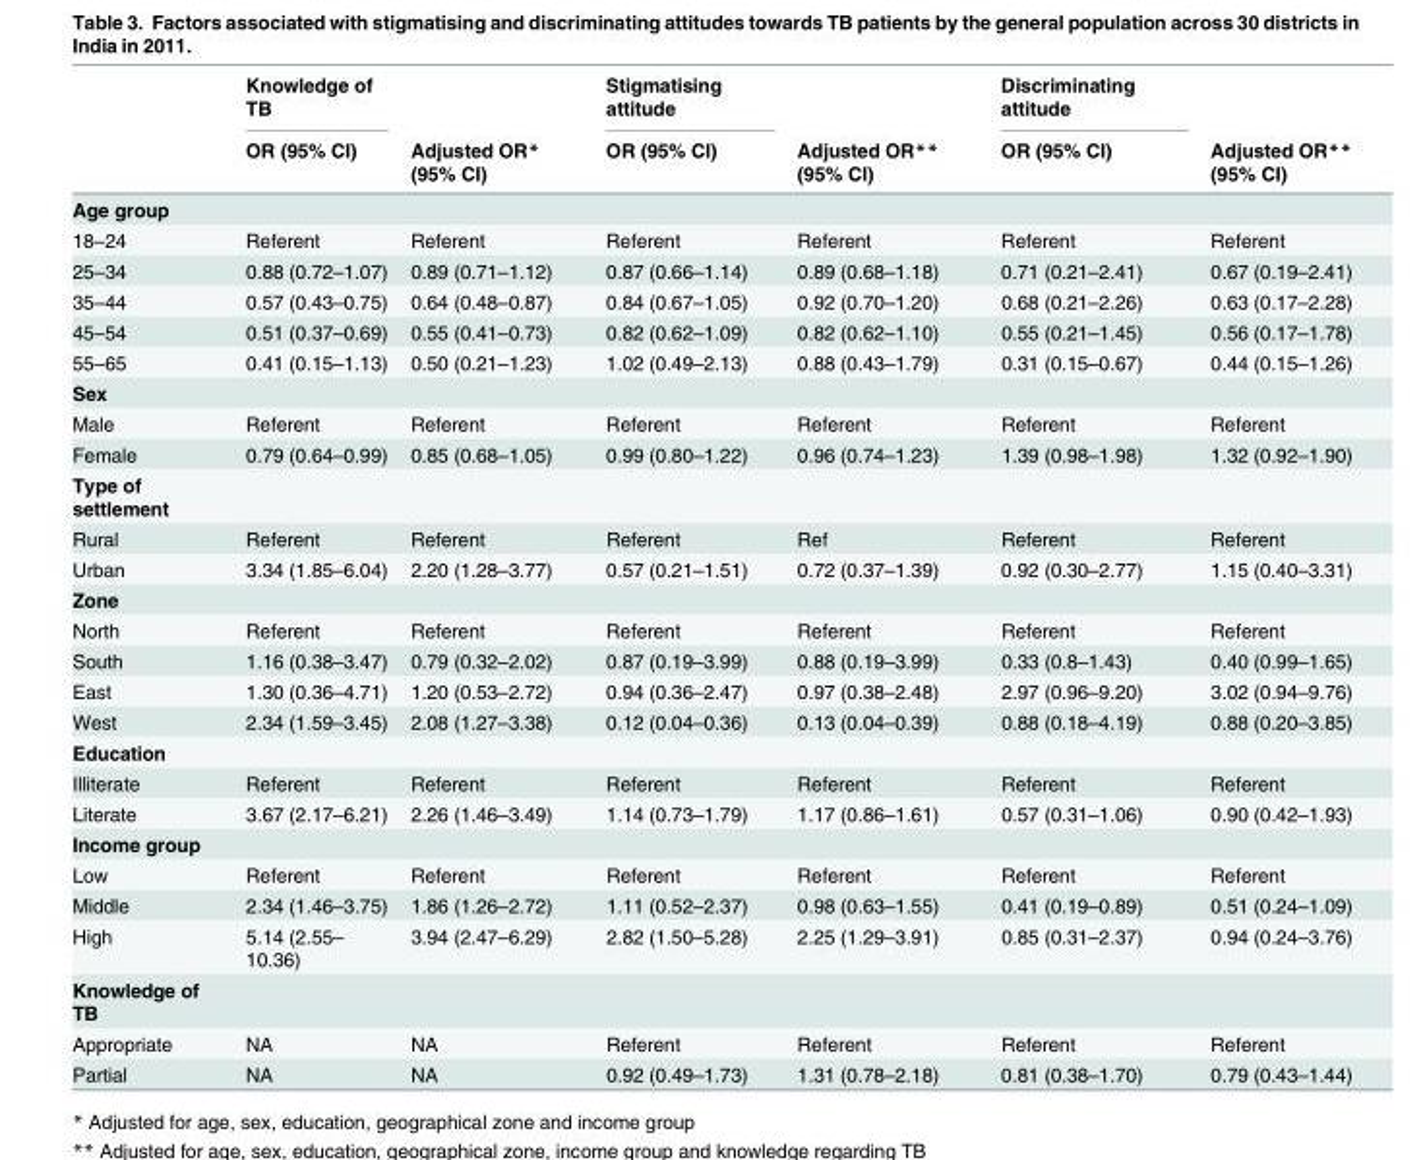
<table><thead><tr><td rowspan="2"></td><td rowspan="2">Knowledge of TB OR (95% CI)</td><td rowspan="2">Adjusted OR* (95% CI)</td><td rowspan="2">Stigmatising attitude OR (95% CI)</td><td rowspan="2">Adjusted OR** (95% CI)</td><td rowspan="2">Discriminating attitude OR (95% CI)</td><td rowspan="2">Adjusted OR** (95% CI)</td></tr><tr></tr></thead><tbody><tr><td colspan="7">Age group</td></tr><tr><td>18–24</td><td>Referent</td><td>Referent</td><td>Referent</td><td>Referent</td><td>Referent</td><td>Referent</td></tr><tr><td>25–34</td><td>0.88 (0.72–1.07)</td><td>0.89 (0.71–1.12)</td><td>0.87 (0.66–1.14)</td><td>0.89 (0.68–1.18)</td><td>0.71 (0.21–2.41)</td><td>0.67 (0.19–2.41)</td></tr><tr><td>35–44</td><td>0.57 (0.43–0.75)</td><td>0.64 (0.48–0.87)</td><td>0.84 (0.67–1.05)</td><td>0.92 (0.70–1.20)</td><td>0.68 (0.21–2.26)</td><td>0.63 (0.17–2.28)</td></tr><tr><td>45–54</td><td>0.51 (0.37–0.69)</td><td>0.55 (0.41–0.73)</td><td>0.82 (0.62–1.09)</td><td>0.82 (0.62–1.10)</td><td>0.55 (0.21–1.45)</td><td>0.56 (0.17–1.78)</td></tr><tr><td>55–65</td><td>0.41 (0.15–1.13)</td><td>0.50 (0.21–1.23)</td><td>1.02 (0.49–2.13)</td><td>0.88 (0.43–1.79)</td><td>0.31 (0.15–0.67)</td><td>0.44 (0.15–1.26)</td></tr><tr><td colspan="7">Sex</td></tr><tr><td>Male</td><td>Referent</td><td>Referent</td><td>Referent</td><td>Referent</td><td>Referent</td><td>Referent</td></tr><tr><td>Female</td><td>0.79 (0.64–0.99)</td><td>0.85 (0.68–1.05)</td><td>0.99 (0.80–1.22)</td><td>0.96 (0.74–1.23)</td><td>1.39 (0.98–1.98)</td><td>1.32 (0.92–1.90)</td></tr><tr><td colspan="7">Type of settlement</td></tr><tr><td>Rural</td><td>Referent</td><td>Referent</td><td>Referent</td><td>Ref</td><td>Referent</td><td>Referent</td></tr><tr><td>Urban</td><td>3.34 (1.85–6.04)</td><td>2.20 (1.28–3.77)</td><td>0.57 (0.21–1.51)</td><td>0.72 (0.37–1.39)</td><td>0.92 (0.30–2.77)</td><td>1.15 (0.40–3.31)</td></tr><tr><td colspan="7">Zone</td></tr><tr><td>North</td><td>Referent</td><td>Referent</td><td>Referent</td><td>Referent</td><td>Referent</td><td>Referent</td></tr><tr><td>South</td><td>1.16 (0.38–3.47)</td><td>0.79 (0.32–2.02)</td><td>0.87 (0.19–3.99)</td><td>0.88 (0.19–3.99)</td><td>0.33 (0.8–1.43)</td><td>0.40 (0.99–1.65)</td></tr><tr><td>East</td><td>1.30 (0.36–4.71)</td><td>1.20 (0.53–2.72)</td><td>0.94 (0.36–2.47)</td><td>0.97 (0.38–2.48)</td><td>2.97 (0.96–9.20)</td><td>3.02 (0.94–9.76)</td></tr><tr><td>West</td><td>2.34 (1.59–3.45)</td><td>2.08 (1.27–3.38)</td><td>0.12 (0.04–0.36)</td><td>0.13 (0.04–0.39)</td><td>0.88 (0.18–4.19)</td><td>0.88 (0.20–3.85)</td></tr><tr><td colspan="7">Education</td></tr><tr><td>Illiterate</td><td>Referent</td><td>Referent</td><td>Referent</td><td>Referent</td><td>Referent</td><td>Referent</td></tr><tr><td>Literate</td><td>3.67 (2.17–6.21)</td><td>2.26 (1.46–3.49)</td><td>1.14 (0.73–1.79)</td><td>1.17 (0.86–1.61)</td><td>0.57 (0.31–1.06)</td><td>0.90 (0.42–1.93)</td></tr><tr><td colspan="7">Income group</td></tr><tr><td>Low</td><td>Referent</td><td>Referent</td><td>Referent</td><td>Referent</td><td>Referent</td><td>Referent</td></tr><tr><td>Middle</td><td>2.34 (1.46–3.75)</td><td>1.86 (1.26–2.72)</td><td>1.11 (0.52–2.37)</td><td>0.98 (0.63–1.55)</td><td>0.41 (0.19–0.89)</td><td>0.51 (0.24–1.09)</td></tr><tr><td>High</td><td>5.14 (2.55– 10.36)</td><td>3.94 (2.47–6.29)</td><td>2.82 (1.50–5.28)</td><td>2.25 (1.29–3.91)</td><td>0.85 (0.31–2.37)</td><td>0.94 (0.24–3.76)</td></tr><tr><td colspan="7">Knowledge of TB</td></tr><tr><td>Appropriate</td><td>NA</td><td>NA</td><td>Referent</td><td>Referent</td><td>Referent</td><td>Referent</td></tr><tr><td>Partial</td><td>NA</td><td>NA</td><td>0.92 (0.49–1.73)</td><td>1.31 (0.78–2.18)</td><td>0.81 (0.38–1.70)</td><td>0.79 (0.43–1.44)</td></tr></tbody></table>